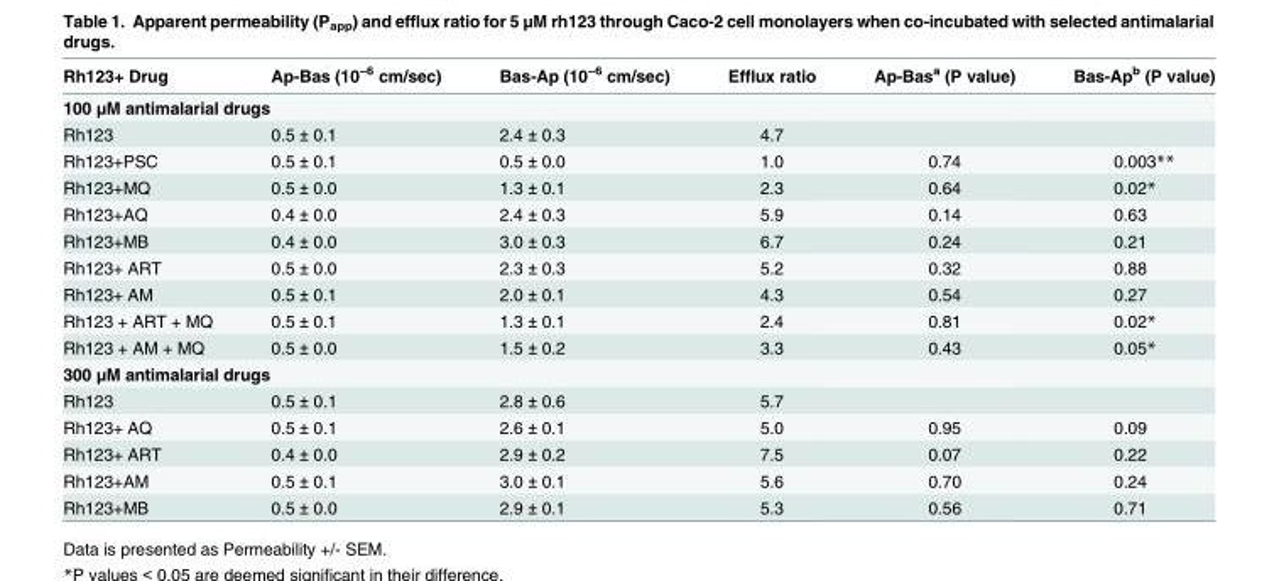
<table><thead><tr><td>Rh123+ Drug</td><td>Ap-Bas (10<sup>−6</sup> cm/sec)</td><td>Bas-Ap (10<sup>−6</sup> cm/sec)</td><td>Efflux ratio</td><td>Ap-Bas<sup>a</sup> (P value)</td><td>Bas-Ap<sup>b</sup> (P value)</td></tr></thead><tbody><tr><td colspan="6">100 μM antimalarial drugs</td></tr><tr><td>Rh123</td><td>0.5 ± 0.1</td><td>2.4 ± 0.3</td><td>4.7</td><td></td><td></td></tr><tr><td>Rh123+PSC</td><td>0.5 ± 0.1</td><td>0.5 ± 0.0</td><td>1.0</td><td>0.74</td><td>0.003**</td></tr><tr><td>Rh123+MQ</td><td>0.5 ± 0.0</td><td>1.3 ± 0.1</td><td>2.3</td><td>0.64</td><td>0.02*</td></tr><tr><td>Rh123+AQ</td><td>0.4 ± 0.0</td><td>2.4 ± 0.3</td><td>5.9</td><td>0.14</td><td>0.63</td></tr><tr><td>Rh123+MB</td><td>0.4 ± 0.0</td><td>3.0 ± 0.3</td><td>6.7</td><td>0.24</td><td>0.21</td></tr><tr><td>Rh123+ ART</td><td>0.5 ± 0.0</td><td>2.3 ± 0.3</td><td>5.2</td><td>0.32</td><td>0.88</td></tr><tr><td>Rh123+ AM</td><td>0.5 ± 0.1</td><td>2.0 ± 0.1</td><td>4.3</td><td>0.54</td><td>0.27</td></tr><tr><td>Rh123 + ART + MQ</td><td>0.5 ± 0.1</td><td>1.3 ± 0.1</td><td>2.4</td><td>0.81</td><td>0.02*</td></tr><tr><td>Rh123 + AM + MQ</td><td>0.5 ± 0.0</td><td>1.5 ± 0.2</td><td>3.3</td><td>0.43</td><td>0.05*</td></tr><tr><td colspan="6">300 μM antimalarial drugs</td></tr><tr><td>Rh123</td><td>0.5 ± 0.1</td><td>2.8 ± 0.6</td><td>5.7</td><td></td><td></td></tr><tr><td>Rh123+ AQ</td><td>0.5 ± 0.1</td><td>2.6 ± 0.1</td><td>5.0</td><td>0.95</td><td>0.09</td></tr><tr><td>Rh123+ ART</td><td>0.4 ± 0.0</td><td>2.9 ± 0.2</td><td>7.5</td><td>0.07</td><td>0.22</td></tr><tr><td>Rh123+AM</td><td>0.5 ± 0.1</td><td>3.0 ± 0.1</td><td>5.6</td><td>0.70</td><td>0.24</td></tr><tr><td>Rh123+MB</td><td>0.5 ± 0.0</td><td>2.9 ± 0.1</td><td>5.3</td><td>0.56</td><td>0.71</td></tr></tbody></table>